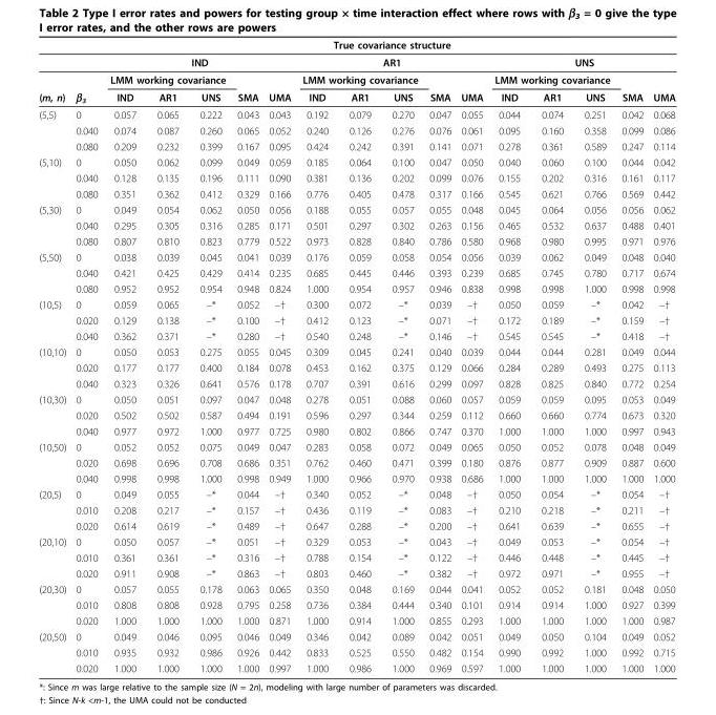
<table><thead><tr><td rowspan="4">(m, n)</td><td rowspan="4">β<sub>3</sub></td><td colspan="15">True covariance structure</td></tr><tr><td colspan="5">IND</td><td colspan="5">AR1</td><td colspan="5">UNS</td></tr><tr><td colspan="3">LMM working covariance</td><td rowspan="2">SMA</td><td rowspan="2">UMA</td><td colspan="3">LMM working covariance</td><td rowspan="2">SMA</td><td rowspan="2">UMA</td><td colspan="3">LMM working covariance</td><td rowspan="2">SMA</td><td rowspan="2">UMA</td></tr><tr><td>IND</td><td>AR1</td><td>UNS</td><td>IND</td><td>AR1</td><td>UNS</td><td>IND</td><td>AR1</td><td>UNS</td></tr></thead><tbody><tr><td rowspan="3">(5,5)</td><td>0</td><td>0.057</td><td>0.065</td><td>0.222</td><td>0.043</td><td>0.043</td><td>0.192</td><td>0.079</td><td>0.270</td><td>0.047</td><td>0.055</td><td>0.044</td><td>0.074</td><td>0.251</td><td>0.042</td><td>0.068</td></tr><tr><td>0.040</td><td>0.074</td><td>0.087</td><td>0.260</td><td>0.065</td><td>0.052</td><td>0.240</td><td>0.126</td><td>0.276</td><td>0.076</td><td>0.061</td><td>0.095</td><td>0.160</td><td>0.358</td><td>0.099</td><td>0.086</td></tr><tr><td>0.080</td><td>0.209</td><td>0.232</td><td>0.399</td><td>0.167</td><td>0.095</td><td>0.424</td><td>0.242</td><td>0.391</td><td>0.141</td><td>0.071</td><td>0.278</td><td>0.361</td><td>0.589</td><td>0.247</td><td>0.114</td></tr><tr><td rowspan="3">(5,10)</td><td>0</td><td>0.050</td><td>0.062</td><td>0.099</td><td>0.049</td><td>0.059</td><td>0.185</td><td>0.064</td><td>0.100</td><td>0.047</td><td>0.050</td><td>0.040</td><td>0.060</td><td>0.100</td><td>0.044</td><td>0.042</td></tr><tr><td>0.040</td><td>0.128</td><td>0.135</td><td>0.196</td><td>0.111</td><td>0.090</td><td>0.381</td><td>0.136</td><td>0.202</td><td>0.099</td><td>0.076</td><td>0.155</td><td>0.202</td><td>0.316</td><td>0.161</td><td>0.117</td></tr><tr><td>0.080</td><td>0.351</td><td>0.362</td><td>0.412</td><td>0.329</td><td>0.166</td><td>0.776</td><td>0.405</td><td>0.478</td><td>0.317</td><td>0.166</td><td>0.545</td><td>0.621</td><td>0.766</td><td>0.569</td><td>0.442</td></tr><tr><td rowspan="3">(5,30)</td><td>0</td><td>0.049</td><td>0.054</td><td>0.062</td><td>0.050</td><td>0.056</td><td>0.188</td><td>0.055</td><td>0.057</td><td>0.055</td><td>0.048</td><td>0.045</td><td>0.064</td><td>0.056</td><td>0.056</td><td>0.062</td></tr><tr><td>0.040</td><td>0.295</td><td>0.305</td><td>0.316</td><td>0.285</td><td>0.171</td><td>0.501</td><td>0.297</td><td>0.302</td><td>0.263</td><td>0.156</td><td>0.465</td><td>0.532</td><td>0.637</td><td>0.488</td><td>0.401</td></tr><tr><td>0.080</td><td>0.807</td><td>0.810</td><td>0.823</td><td>0.779</td><td>0.522</td><td>0.973</td><td>0.828</td><td>0.840</td><td>0.786</td><td>0.580</td><td>0.968</td><td>0.980</td><td>0.995</td><td>0.971</td><td>0.976</td></tr><tr><td rowspan="3">(5,50)</td><td>0</td><td>0.038</td><td>0.039</td><td>0.045</td><td>0.041</td><td>0.039</td><td>0.176</td><td>0.059</td><td>0.058</td><td>0.054</td><td>0.056</td><td>0.039</td><td>0.062</td><td>0.049</td><td>0.048</td><td>0.040</td></tr><tr><td>0.040</td><td>0.421</td><td>0.425</td><td>0.429</td><td>0.414</td><td>0.235</td><td>0.685</td><td>0.445</td><td>0.446</td><td>0.393</td><td>0.239</td><td>0.685</td><td>0.745</td><td>0.780</td><td>0.717</td><td>0.674</td></tr><tr><td>0.080</td><td>0.952</td><td>0.952</td><td>0.954</td><td>0.948</td><td>0.824</td><td>1.000</td><td>0.954</td><td>0.957</td><td>0.946</td><td>0.838</td><td>0.998</td><td>0.998</td><td>1.000</td><td>0.998</td><td>0.998</td></tr><tr><td rowspan="3">(10,5)</td><td>0</td><td>0.059</td><td>0.065</td><td>–*</td><td>0.052</td><td>–†</td><td>0.300</td><td>0.072</td><td>–*</td><td>0.039</td><td>–†</td><td>0.050</td><td>0.059</td><td>–*</td><td>0.042</td><td>–†</td></tr><tr><td>0.020</td><td>0.129</td><td>0.138</td><td>–*</td><td>0.100</td><td>–†</td><td>0.412</td><td>0.123</td><td>–*</td><td>0.071</td><td>–†</td><td>0.172</td><td>0.189</td><td>–*</td><td>0.159</td><td>–†</td></tr><tr><td>0.040</td><td>0.362</td><td>0.371</td><td>–*</td><td>0.280</td><td>–†</td><td>0.540</td><td>0.248</td><td>–*</td><td>0.146</td><td>–†</td><td>0.545</td><td>0.545</td><td>–*</td><td>0.418</td><td>–†</td></tr><tr><td rowspan="3">(10,10)</td><td>0</td><td>0.050</td><td>0.053</td><td>0.275</td><td>0.055</td><td>0.045</td><td>0.309</td><td>0.045</td><td>0.241</td><td>0.040</td><td>0.039</td><td>0.044</td><td>0.044</td><td>0.281</td><td>0.049</td><td>0.044</td></tr><tr><td>0.020</td><td>0.177</td><td>0.177</td><td>0.400</td><td>0.184</td><td>0.078</td><td>0.453</td><td>0.162</td><td>0.375</td><td>0.129</td><td>0.066</td><td>0.284</td><td>0.289</td><td>0.493</td><td>0.275</td><td>0.113</td></tr><tr><td>0.040</td><td>0.323</td><td>0.326</td><td>0.641</td><td>0.576</td><td>0.178</td><td>0.707</td><td>0.391</td><td>0.616</td><td>0.299</td><td>0.097</td><td>0.828</td><td>0.825</td><td>0.840</td><td>0.772</td><td>0.254</td></tr><tr><td rowspan="3">(10,30)</td><td>0</td><td>0.050</td><td>0.051</td><td>0.097</td><td>0.047</td><td>0.048</td><td>0.278</td><td>0.051</td><td>0.088</td><td>0.060</td><td>0.057</td><td>0.059</td><td>0.059</td><td>0.095</td><td>0.053</td><td>0.049</td></tr><tr><td>0.020</td><td>0.502</td><td>0.502</td><td>0.587</td><td>0.494</td><td>0.191</td><td>0.596</td><td>0.297</td><td>0.344</td><td>0.259</td><td>0.112</td><td>0.660</td><td>0.660</td><td>0.774</td><td>0.673</td><td>0.320</td></tr><tr><td>0.040</td><td>0.977</td><td>0.972</td><td>1.000</td><td>0.977</td><td>0.725</td><td>0.980</td><td>0.802</td><td>0.866</td><td>0.747</td><td>0.370</td><td>1.000</td><td>1.000</td><td>1.000</td><td>0.997</td><td>0.943</td></tr><tr><td rowspan="3">(10,50)</td><td>0</td><td>0.052</td><td>0.052</td><td>0.075</td><td>0.049</td><td>0.047</td><td>0.283</td><td>0.058</td><td>0.072</td><td>0.049</td><td>0.065</td><td>0.050</td><td>0.052</td><td>0.078</td><td>0.048</td><td>0.049</td></tr><tr><td>0.020</td><td>0.698</td><td>0.696</td><td>0.708</td><td>0.686</td><td>0.351</td><td>0.762</td><td>0.460</td><td>0.471</td><td>0.399</td><td>0.180</td><td>0.876</td><td>0.877</td><td>0.909</td><td>0.887</td><td>0.600</td></tr><tr><td>0.040</td><td>0.998</td><td>0.998</td><td>1.000</td><td>0.998</td><td>0.949</td><td>1.000</td><td>0.966</td><td>0.970</td><td>0.938</td><td>0.686</td><td>1.000</td><td>1.000</td><td>1.000</td><td>1.000</td><td>1.000</td></tr><tr><td rowspan="3">(20,5)</td><td>0</td><td>0.049</td><td>0.055</td><td>–*</td><td>0.044</td><td>–†</td><td>0.340</td><td>0.052</td><td>–*</td><td>0.048</td><td>–†</td><td>0.050</td><td>0.054</td><td>–*</td><td>0.054</td><td>–†</td></tr><tr><td>0.010</td><td>0.208</td><td>0.217</td><td>–*</td><td>0.157</td><td>–†</td><td>0.436</td><td>0.119</td><td>–*</td><td>0.083</td><td>–†</td><td>0.210</td><td>0.218</td><td>–*</td><td>0.211</td><td>–†</td></tr><tr><td>0.020</td><td>0.614</td><td>0.619</td><td>–*</td><td>0.489</td><td>–†</td><td>0.647</td><td>0.288</td><td>–*</td><td>0.200</td><td>–†</td><td>0.641</td><td>0.639</td><td>–*</td><td>0.655</td><td>–†</td></tr><tr><td rowspan="3">(20,10)</td><td>0</td><td>0.050</td><td>0.057</td><td>–*</td><td>0.051</td><td>–†</td><td>0.329</td><td>0.053</td><td>–*</td><td>0.043</td><td>–†</td><td>0.049</td><td>0.053</td><td>–*</td><td>0.054</td><td>–†</td></tr><tr><td>0.010</td><td>0.361</td><td>0.361</td><td>–*</td><td>0.316</td><td>–†</td><td>0.788</td><td>0.154</td><td>–*</td><td>0.122</td><td>–†</td><td>0.446</td><td>0.448</td><td>–*</td><td>0.445</td><td>–†</td></tr><tr><td>0.020</td><td>0.911</td><td>0.908</td><td>–*</td><td>0.863</td><td>–†</td><td>0.803</td><td>0.460</td><td>–*</td><td>0.382</td><td>–†</td><td>0.972</td><td>0.971</td><td>–*</td><td>0.955</td><td>–†</td></tr><tr><td rowspan="3">(20,30)</td><td>0</td><td>0.057</td><td>0.055</td><td>0.178</td><td>0.063</td><td>0.065</td><td>0.350</td><td>0.048</td><td>0.169</td><td>0.044</td><td>0.041</td><td>0.052</td><td>0.052</td><td>0.181</td><td>0.048</td><td>0.050</td></tr><tr><td>0.010</td><td>0.808</td><td>0.808</td><td>0.928</td><td>0.795</td><td>0.258</td><td>0.736</td><td>0.384</td><td>0.444</td><td>0.340</td><td>0.101</td><td>0.914</td><td>0.914</td><td>1.000</td><td>0.927</td><td>0.399</td></tr><tr><td>0.020</td><td>1.000</td><td>1.000</td><td>1.000</td><td>1.000</td><td>0.871</td><td>1.000</td><td>0.914</td><td>1.000</td><td>0.855</td><td>0.293</td><td>1.000</td><td>1.000</td><td>1.000</td><td>1.000</td><td>0.987</td></tr><tr><td rowspan="3">(20,50)</td><td>0</td><td>0.049</td><td>0.046</td><td>0.095</td><td>0.046</td><td>0.049</td><td>0.346</td><td>0.042</td><td>0.089</td><td>0.042</td><td>0.051</td><td>0.049</td><td>0.050</td><td>0.104</td><td>0.049</td><td>0.052</td></tr><tr><td>0.010</td><td>0.935</td><td>0.932</td><td>0.986</td><td>0.926</td><td>0.442</td><td>0.833</td><td>0.525</td><td>0.550</td><td>0.482</td><td>0.154</td><td>0.990</td><td>0.992</td><td>1.000</td><td>0.992</td><td>0.715</td></tr><tr><td>0.020</td><td>1.000</td><td>1.000</td><td>1.000</td><td>1.000</td><td>0.997</td><td>1.000</td><td>0.986</td><td>1.000</td><td>0.969</td><td>0.597</td><td>1.000</td><td>1.000</td><td>1.000</td><td>1.000</td><td>1.000</td></tr></tbody></table>